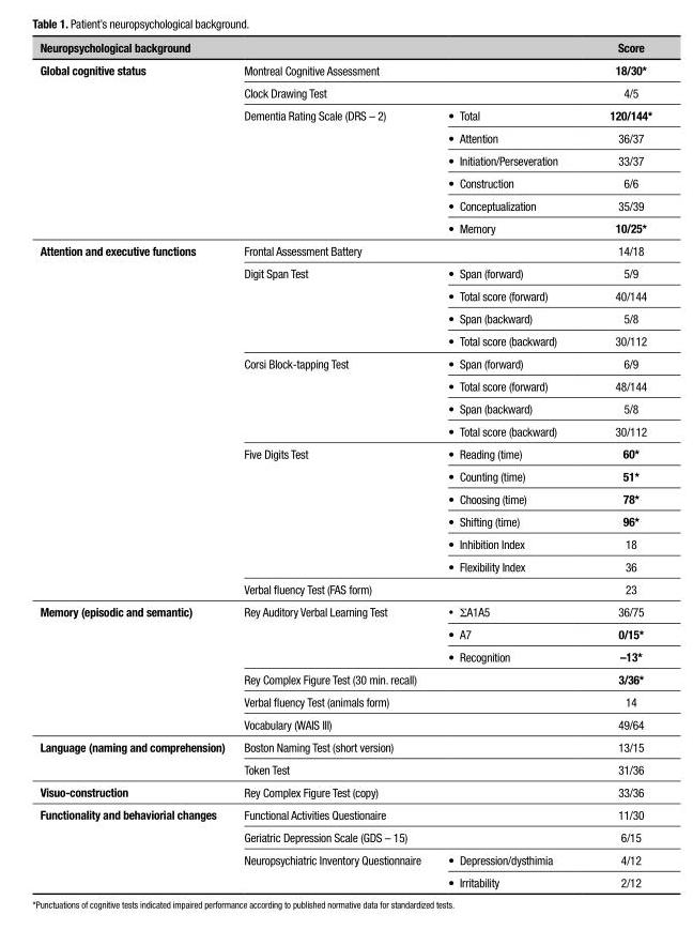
<table><thead><tr><td>Neuropsychological background</td><td></td><td></td><td>Score</td></tr></thead><tbody><tr><td rowspan="8">Global cognitive status</td><td>Montreal Cognitive Assessment</td><td></td><td>18/30*</td></tr><tr><td>Clock Drawing Test</td><td></td><td>4/5</td></tr><tr><td rowspan="6">Dementia Rating Scale (DRS – 2)</td><td>• Total</td><td>120/144*</td></tr><tr><td>• Attention</td><td>36/37</td></tr><tr><td>• Initiation/Perseveration</td><td>33/37</td></tr><tr><td>• Construction</td><td>6/6</td></tr><tr><td>• Conceptualization</td><td>35/39</td></tr><tr><td>• Memory</td><td>10/25*</td></tr><tr><td rowspan="16">Attention and executive functions</td><td>Frontal Assessment Battery</td><td></td><td>14/18</td></tr><tr><td rowspan="4">Digit Span Test</td><td>• Span (forward)</td><td>5/9</td></tr><tr><td>• Total score (forward)</td><td>40/144</td></tr><tr><td>• Span (backward)</td><td>5/8</td></tr><tr><td>• Total score (backward)</td><td>30/112</td></tr><tr><td rowspan="4">Corsi Block-tapping Test</td><td>• Span (forward)</td><td>6/9</td></tr><tr><td>• Total score (forward)</td><td>48/144</td></tr><tr><td>• Span (backward)</td><td>5/8</td></tr><tr><td>• Total score (backward)</td><td>30/112</td></tr><tr><td rowspan="6">Five Digits Test</td><td>• Reading (time)</td><td>60*</td></tr><tr><td>• Counting (time)</td><td>51*</td></tr><tr><td>• Choosing (time)</td><td>78*</td></tr><tr><td>• Shifting (time)</td><td>96*</td></tr><tr><td>• Inhibition Index</td><td>18</td></tr><tr><td>• Flexibility Index</td><td>36</td></tr><tr><td>Verbal fluency Test (FAS form)</td><td></td><td>23</td></tr><tr><td rowspan="6">Memory (episodic and semantic)</td><td rowspan="3">Rey Auditory Verbal Learning Test</td><td>• ΣA1A5</td><td>36/75</td></tr><tr><td>• A7</td><td>0/15*</td></tr><tr><td>• Recognition</td><td>–13*</td></tr><tr><td>Rey Complex Figure Test (30 min. recall)</td><td></td><td>3/36*</td></tr><tr><td>Verbal fluency Test (animals form)</td><td></td><td>14</td></tr><tr><td>Vocabulary (WAIS III)</td><td></td><td>49/64</td></tr><tr><td rowspan="2">Language (naming and comprehension)</td><td>Boston Naming Test (short version)</td><td></td><td>13/15</td></tr><tr><td>Token Test</td><td></td><td>31/36</td></tr><tr><td>Visuo-construction</td><td>Rey Complex Figure Test (copy)</td><td></td><td>33/36</td></tr><tr><td rowspan="4">Functionality and behaviorial changes</td><td>Functional Activities Questionaire</td><td></td><td>11/30</td></tr><tr><td>Geriatric Depression Scale (GDS – 15)</td><td></td><td>6/15</td></tr><tr><td rowspan="2">Neuropsychiatric Inventory Questionnaire</td><td>• Depression/dysthimia</td><td>4/12</td></tr><tr><td>• Irritability</td><td>2/12</td></tr></tbody></table>